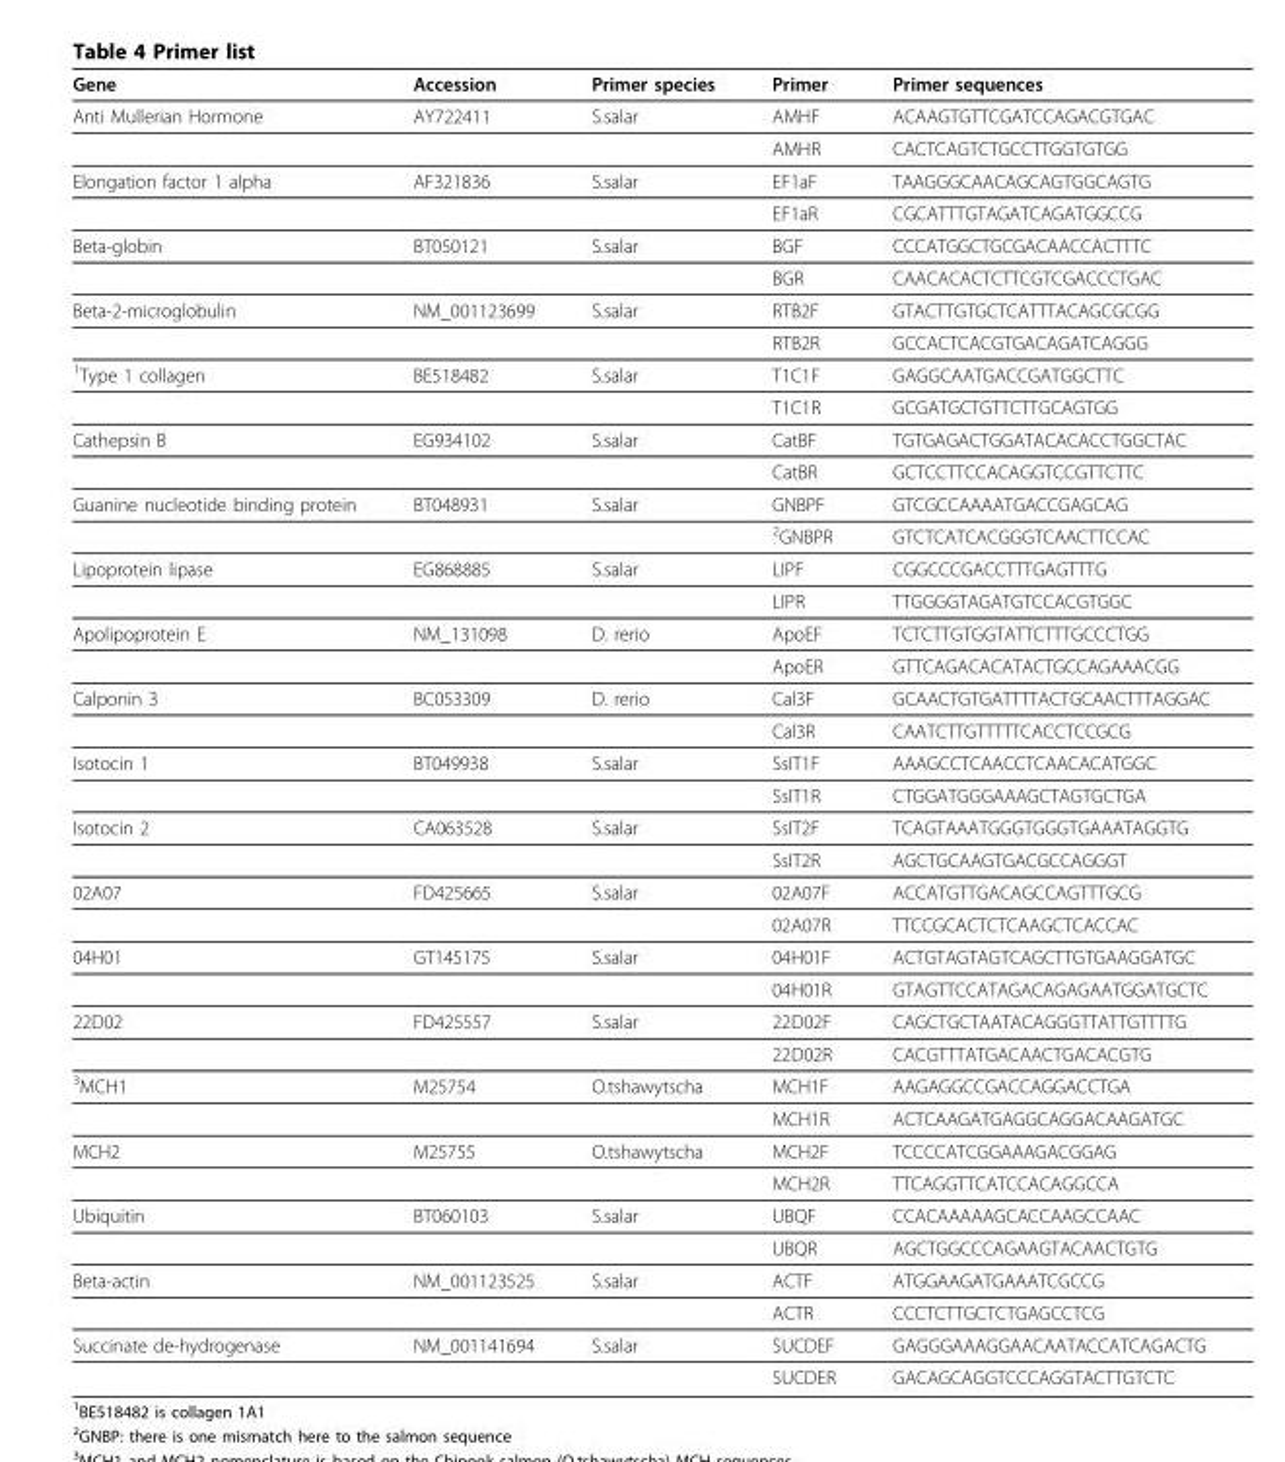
<table><thead><tr><td>Gene</td><td>Accession</td><td>Primer species</td><td>Primer</td><td>Primer sequences</td></tr></thead><tbody><tr><td rowspan="2">Anti Mullerian Hormone</td><td>AY722411</td><td>S.salar</td><td>AMHF</td><td>ACAAGTGTTCGATCCAGACGTGAC</td></tr><tr><td></td><td></td><td>AMHR</td><td>CACTCAGTCTGCCTTGGTGTGG</td></tr><tr><td rowspan="2">Elongation factor 1 alpha</td><td>AF321836</td><td>S.salar</td><td>EF1aF</td><td>TAAGGGCAACAGCAGTGGCAGTG</td></tr><tr><td></td><td></td><td>EF1aR</td><td>CGCATTTGTAGATCAGATGGCCG</td></tr><tr><td rowspan="2">Beta-globin</td><td>BT050121</td><td>S.salar</td><td>BGF</td><td>CCCATGGCTGCGACAACCACTTTC</td></tr><tr><td></td><td></td><td>BGR</td><td>CAACACACTCTTCGTCGACCCTGAC</td></tr><tr><td rowspan="2">Beta-2-microglobulin</td><td>NM_001123699</td><td>S.salar</td><td>RTB2F</td><td>GTACTTGTGCTCATTTACAGCGCGG</td></tr><tr><td></td><td></td><td>RTB2R</td><td>GCCACTCACGTGACAGATCAGGG</td></tr><tr><td rowspan="2"><sup>1</sup>Type 1 collagen</td><td>BE518482</td><td>S.salar</td><td>T1C1F</td><td>GAGGCAATGACCGATGGCTTC</td></tr><tr><td></td><td></td><td>T1C1R</td><td>GCGATGCTGTTCTTGCAGTGG</td></tr><tr><td rowspan="2">Cathepsin B</td><td>EG934102</td><td>S.salar</td><td>CatBF</td><td>TGTGAGACTGGATACACACCTGGCTAC</td></tr><tr><td></td><td></td><td>CatBR</td><td>GCTCCTTCCACAGGTCCGTTCTTC</td></tr><tr><td rowspan="2">Guanine nucleotide binding protein</td><td>BT048931</td><td>S.salar</td><td>GNBPF</td><td>GTCGCCAAAATGACCGAGCAG</td></tr><tr><td></td><td></td><td><sup>2</sup>GNBPR</td><td>GTCTCATCACGGGTCAACTTCCAC</td></tr><tr><td rowspan="2">Lipoprotein lipase</td><td>EG868885</td><td>S.salar</td><td>LIPF</td><td>CGGCCCGACCTTTGAGTTTG</td></tr><tr><td></td><td></td><td>LIPR</td><td>TTGGGGTAGATGTCCACGTGGC</td></tr><tr><td rowspan="2">Apolipoprotein E</td><td>NM_131098</td><td>D. rerio</td><td>ApoEF</td><td>TCTCTTGTGGTATTCTTTGCCCTGG</td></tr><tr><td></td><td></td><td>ApoER</td><td>GTTCAGACACATACTGCCAGAAACGG</td></tr><tr><td rowspan="2">Calponin 3</td><td>BC053309</td><td>D. rerio</td><td>Cal3F</td><td>GCAACTGTGATTTTACTGCAACTTTAGGAC</td></tr><tr><td></td><td></td><td>Cal3R</td><td>CAATCTTGTTTTTCACCTCCGCG</td></tr><tr><td rowspan="2">Isotocin 1</td><td>BT049938</td><td>S.salar</td><td>SsIT1F</td><td>AAAGCCTCAACCTCAACACATGGC</td></tr><tr><td></td><td></td><td>SsIT1R</td><td>CTGGATGGGAAAGCTAGTGCTGA</td></tr><tr><td rowspan="2">Isotocin 2</td><td>CA063528</td><td>S.salar</td><td>SsIT2F</td><td>TCAGTAAATGGGTGGGTGAAATAGGTG</td></tr><tr><td></td><td></td><td>SsIT2R</td><td>AGCTGCAAGTGACGCCAGGGT</td></tr><tr><td rowspan="2">02A07</td><td>FD425665</td><td>S.salar</td><td>02A07F</td><td>ACCATGTTGACAGCCAGTTTGCG</td></tr><tr><td></td><td></td><td>02A07R</td><td>TTCCGCACTCTCAAGCTCACCAC</td></tr><tr><td rowspan="2">04H01</td><td>GT145175</td><td>S.salar</td><td>04H01F</td><td>ACTGTAGTAGTCAGCTTGTGAAGGATGC</td></tr><tr><td></td><td></td><td>04H01R</td><td>GTAGTTCCATAGACAGAGAATGGATGCTC</td></tr><tr><td rowspan="2">22D02</td><td>FD425557</td><td>S.salar</td><td>22D02F</td><td>CAGCTGCTAATACAGGGTTATTGTTTTG</td></tr><tr><td></td><td></td><td>22D02R</td><td>CACGTTTATGACAACTGACACGTG</td></tr><tr><td rowspan="2"><sup>3</sup>MCH1</td><td>M25754</td><td>O.tshawytscha</td><td>MCH1F</td><td>AAGAGGCCGACCAGGACCTGA</td></tr><tr><td></td><td></td><td>MCH1R</td><td>ACTCAAGATGAGGCAGGACAAGATGC</td></tr><tr><td rowspan="2">MCH2</td><td>M25755</td><td>O.tshawytscha</td><td>MCH2F</td><td>TCCCCATCGGAAAGACGGAG</td></tr><tr><td></td><td></td><td>MCH2R</td><td>TTCAGGTTCATCCACAGGCCA</td></tr><tr><td rowspan="2">Ubiquitin</td><td>BT060103</td><td>S.salar</td><td>UBQF</td><td>CCACAAAAAGCACCAAGCCAAC</td></tr><tr><td></td><td></td><td>UBQR</td><td>AGCTGGCCCAGAAGTACAACTGTG</td></tr><tr><td rowspan="2">Beta-actin</td><td>NM_001123525</td><td>S.salar</td><td>ACTF</td><td>ATGGAAGATGAAATCGCCG</td></tr><tr><td></td><td></td><td>ACTR</td><td>CCCTCTTGCTCTGAGCCTCG</td></tr><tr><td rowspan="2">Succinate de-hydrogenase</td><td>NM_001141694</td><td>S.salar</td><td>SUCDEF</td><td>GAGGGAAAGGAACAATACCATCAGACTG</td></tr><tr><td></td><td></td><td>SUCDER</td><td>GACAGCAGGTCCCAGGTACTTGTCTC</td></tr></tbody></table>